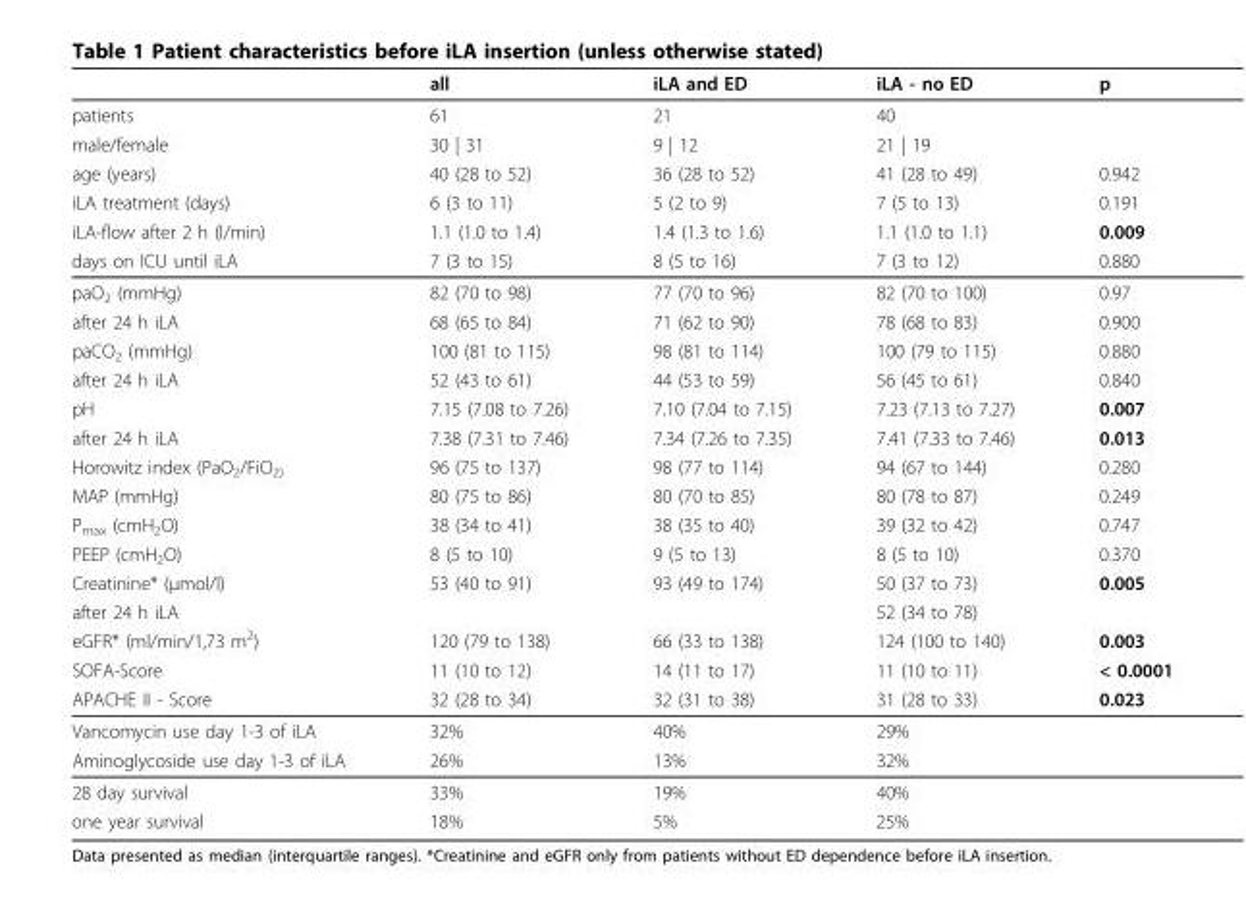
<table><thead><tr><td></td><td>all</td><td>iLA and ED</td><td>iLA - no ED</td><td>p</td></tr></thead><tbody><tr><td>patients</td><td>61</td><td>21</td><td>40</td><td></td></tr><tr><td>male/female</td><td>30 | 31</td><td>9 | 12</td><td>21 | 19</td><td></td></tr><tr><td>age (years)</td><td>40 (28 to 52)</td><td>36 (28 to 52)</td><td>41 (28 to 49)</td><td>0.942</td></tr><tr><td>iLA treatment (days)</td><td>6 (3 to 11)</td><td>5 (2 to 9)</td><td>7 (5 to 13)</td><td>0.191</td></tr><tr><td>iLA-flow after 2 h (l/min)</td><td>1.1 (1.0 to 1.4)</td><td>1.4 (1.3 to 1.6)</td><td>1.1 (1.0 to 1.1)</td><td>0.009</td></tr><tr><td>days on ICU until iLA</td><td>7 (3 to 15)</td><td>8 (5 to 16)</td><td>7 (3 to 12)</td><td>0.880</td></tr><tr><td>paO<sub>2</sub> (mmHg)</td><td>82 (70 to 98)</td><td>77 (70 to 96)</td><td>82 (70 to 100)</td><td>0.97</td></tr><tr><td>after 24 h iLA</td><td>68 (65 to 84)</td><td>71 (62 to 90)</td><td>78 (68 to 83)</td><td>0.900</td></tr><tr><td>paCO<sub>2</sub> (mmHg)</td><td>100 (81 to 115)</td><td>98 (81 to 114)</td><td>100 (79 to 115)</td><td>0.880</td></tr><tr><td>after 24 h iLA</td><td>52 (43 to 61)</td><td>44 (53 to 59)</td><td>56 (45 to 61)</td><td>0.840</td></tr><tr><td>pH</td><td>7.15 (7.08 to 7.26)</td><td>7.10 (7.04 to 7.15)</td><td>7.23 (7.13 to 7.27)</td><td>0.007</td></tr><tr><td>after 24 h iLA</td><td>7.38 (7.31 to 7.46)</td><td>7.34 (7.26 to 7.35)</td><td>7.41 (7.33 to 7.46)</td><td>0.013</td></tr><tr><td>Horowitz index (PaO<sub>2</sub>/FiO<sub>2)</sub></td><td>96 (75 to 137)</td><td>98 (77 to 114)</td><td>94 (67 to 144)</td><td>0.280</td></tr><tr><td>MAP (mmHg)</td><td>80 (75 to 86)</td><td>80 (70 to 85)</td><td>80 (78 to 87)</td><td>0.249</td></tr><tr><td>P<sub>max</sub> (cmH<sub>2</sub>O)</td><td>38 (34 to 41)</td><td>38 (35 to 40)</td><td>39 (32 to 42)</td><td>0.747</td></tr><tr><td>PEEP (cmH<sub>2</sub>O)</td><td>8 (5 to 10)</td><td>9 (5 to 13)</td><td>8 (5 to 10)</td><td>0.370</td></tr><tr><td>Creatinine* (μmol/l)</td><td>53 (40 to 91)</td><td>93 (49 to 174)</td><td>50 (37 to 73)</td><td>0.005</td></tr><tr><td>after 24 h iLA</td><td></td><td></td><td>52 (34 to 78)</td><td></td></tr><tr><td>eGFR* (ml/min/1,73 m<sup>2</sup>)</td><td>120 (79 to 138)</td><td>66 (33 to 138)</td><td>124 (100 to 140)</td><td>0.003</td></tr><tr><td>SOFA-Score</td><td>11 (10 to 12)</td><td>14 (11 to 17)</td><td>11 (10 to 11)</td><td>&lt; 0.0001</td></tr><tr><td>APACHE II - Score</td><td>32 (28 to 34)</td><td>32 (31 to 38)</td><td>31 (28 to 33)</td><td>0.023</td></tr><tr><td>Vancomycin use day 1-3 of iLA</td><td>32%</td><td>40%</td><td>29%</td><td></td></tr><tr><td>Aminoglycoside use day 1-3 of iLA</td><td>26%</td><td>13%</td><td>32%</td><td></td></tr><tr><td>28 day survival</td><td>33%</td><td>19%</td><td>40%</td><td></td></tr><tr><td>one year survival</td><td>18%</td><td>5%</td><td>25%</td><td></td></tr></tbody></table>